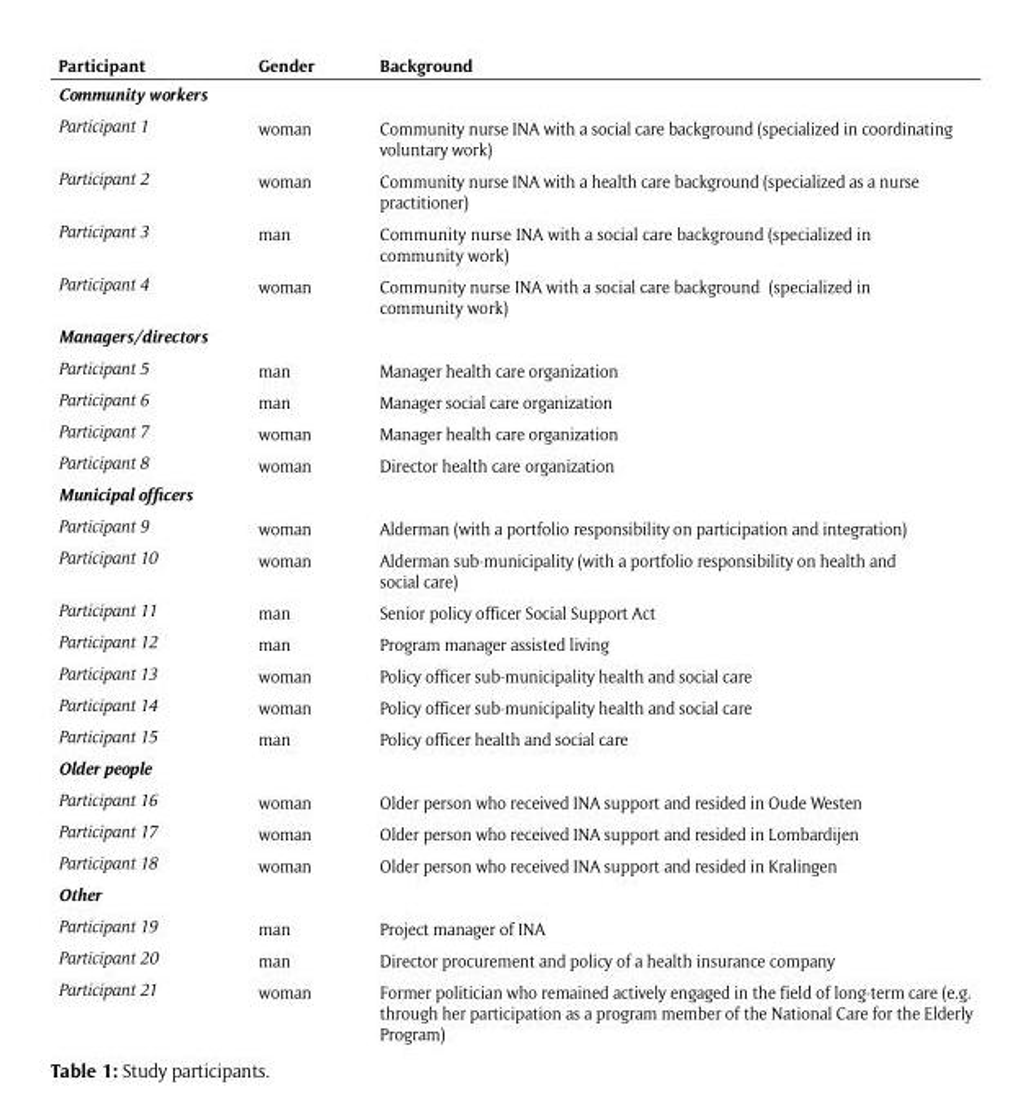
<table><thead><tr><td>Participant</td><td>Gender</td><td>Background</td></tr></thead><tbody><tr><td colspan="3">Community workers</td></tr><tr><td>Participant 1</td><td>woman</td><td>Community nurse INA with a social care background (specialized in coordinating voluntary work)</td></tr><tr><td>Participant 2</td><td>woman</td><td>Community nurse INA with a health care background (specialized as a nurse practitioner)</td></tr><tr><td>Participant 3</td><td>man</td><td>Community nurse INA with a social care background (specialized in community work)</td></tr><tr><td>Participant 4</td><td>woman</td><td>Community nurse INA with a social care background (specialized in community work)</td></tr><tr><td colspan="3">Managers/directors</td></tr><tr><td>Participant 5</td><td>man</td><td>Manager health care organization</td></tr><tr><td>Participant 6</td><td>man</td><td>Manager social care organization</td></tr><tr><td>Participant 7</td><td>woman</td><td>Manager health care organization</td></tr><tr><td>Participant 8</td><td>woman</td><td>Director health care organization</td></tr><tr><td colspan="3">Municipal officers</td></tr><tr><td>Participant 9</td><td>woman</td><td>Alderman (with a portfolio responsibility on participation and integration)</td></tr><tr><td>Participant 10</td><td>woman</td><td>Alderman sub-municipality (with a portfolio responsibility on health and social care)</td></tr><tr><td>Participant 11</td><td>man</td><td>Senior policy officer Social Support Act</td></tr><tr><td>Participant 12</td><td>man</td><td>Program manager assisted living</td></tr><tr><td>Participant 13</td><td>woman</td><td>Policy officer sub-municipality health and social care</td></tr><tr><td>Participant 14</td><td>woman</td><td>Policy officer sub-municipality health and social care</td></tr><tr><td>Participant 15</td><td>man</td><td>Policy officer health and social care</td></tr><tr><td colspan="3">Older people</td></tr><tr><td>Participant 16</td><td>woman</td><td>Older person who received INA support and resided in Oude Westen</td></tr><tr><td>Participant 17</td><td>woman</td><td>Older person who received INA support and resided in Lombardijen</td></tr><tr><td>Participant 18</td><td>woman</td><td>Older person who received INA support and resided in Kralingen</td></tr><tr><td colspan="3">Other</td></tr><tr><td>Participant 19</td><td>man</td><td>Project manager of INA</td></tr><tr><td>Participant 20</td><td>man</td><td>Director procurement and policy of a health insurance company</td></tr><tr><td>Participant 21</td><td>woman</td><td>Former politician who remained actively engaged in the field of long-term care (e.g. through her participation as a program member of the National Care for the Elderly Program)</td></tr></tbody></table>